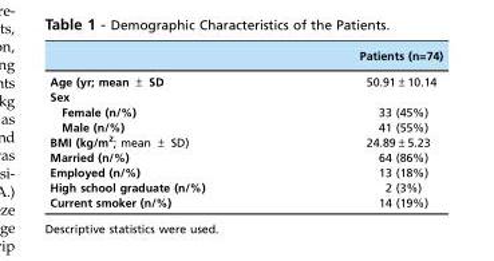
<table><thead><tr><td></td><td>Patients (n=74)</td></tr></thead><tbody><tr><td>Age (yr; mean ± SD</td><td>50.91±10.14</td></tr><tr><td colspan="2">Sex</td></tr><tr><td>Female (n/%)</td><td>33 (45%)</td></tr><tr><td>Male (n/%)</td><td>41 (55%)</td></tr><tr><td>BMI (kg/m<sup>2</sup>; mean ± SD)</td><td>24.89±5.23</td></tr><tr><td>Married (n/%)</td><td>64 (86%)</td></tr><tr><td>Employed (n/%)</td><td>13 (18%)</td></tr><tr><td>High school graduate (n/%)</td><td>2 (3%)</td></tr><tr><td>Current smoker (n/%)</td><td>14 (19%)</td></tr></tbody></table>